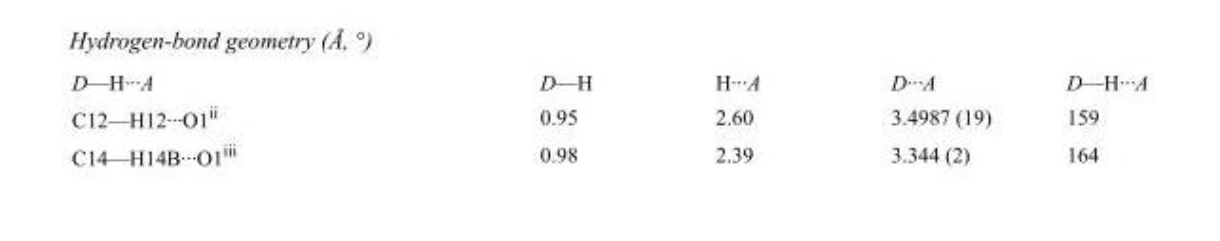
<table><tbody><tr><td>D—H···A</td><td>D—H</td><td>H···A</td><td>D···A</td><td>D—H···A</td></tr><tr><td>C12—H12···O1<sup>ii</sup></td><td>0.95</td><td>2.60</td><td>3.4987 (19)</td><td>159</td></tr><tr><td>C14—H14B···O1<sup>iii</sup></td><td>0.98</td><td>2.39</td><td>3.344 (2)</td><td>164</td></tr></tbody></table>